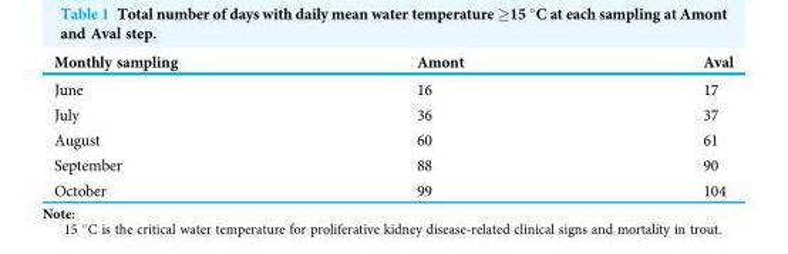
<table><thead><tr><td>Monthly sampling</td><td>Amont</td><td>Aval</td></tr></thead><tbody><tr><td>June</td><td>16</td><td>17</td></tr><tr><td>July</td><td>36</td><td>37</td></tr><tr><td>August</td><td>60</td><td>61</td></tr><tr><td>September</td><td>88</td><td>90</td></tr><tr><td>October</td><td>99</td><td>104</td></tr></tbody></table>